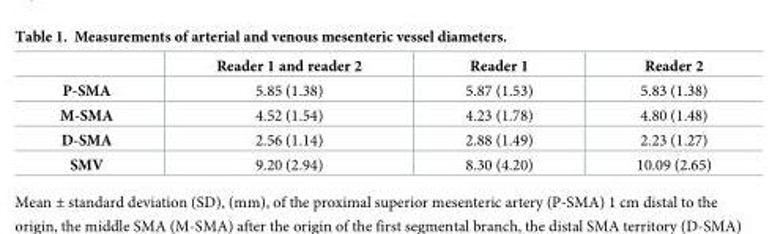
<table><thead><tr><td></td><td>Reader 1 and reader 2</td><td>Reader 1</td><td>Reader 2</td></tr></thead><tbody><tr><td>P-SMA</td><td>5.85 (1.38)</td><td>5.87 (1.53)</td><td>5.83 (1.38)</td></tr><tr><td>M-SMA</td><td>4.52 (1.54)</td><td>4.23 (1.78)</td><td>4.80 (1.48)</td></tr><tr><td>D-SMA</td><td>2.56 (1.14)</td><td>2.88 (1.49)</td><td>2.23 (1.27)</td></tr><tr><td>SMV</td><td>9.20 (2.94)</td><td>8.30 (4.20)</td><td>10.09 (2.65)</td></tr></tbody></table>